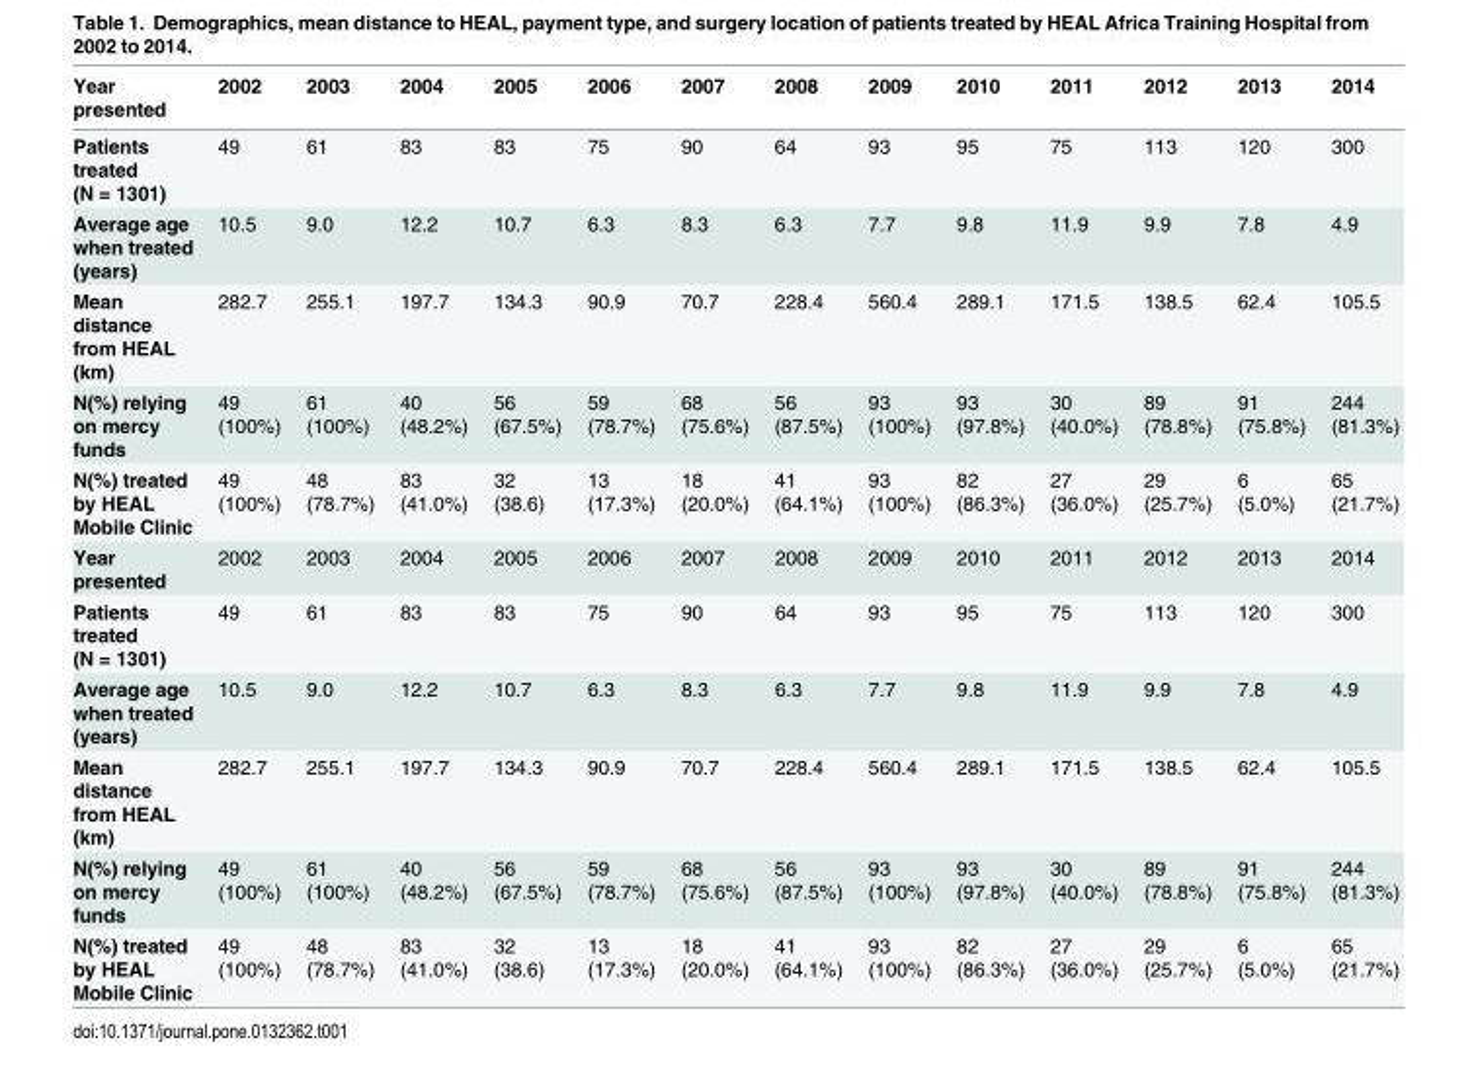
<table><thead><tr><td>Year presented</td><td>2002</td><td>2003</td><td>2004</td><td>2005</td><td>2006</td><td>2007</td><td>2008</td><td>2009</td><td>2010</td><td>2011</td><td>2012</td><td>2013</td><td>2014</td></tr></thead><tbody><tr><td>Patients treated (N = 1301)</td><td>49</td><td>61</td><td>83</td><td>83</td><td>75</td><td>90</td><td>64</td><td>93</td><td>95</td><td>75</td><td>113</td><td>120</td><td>300</td></tr><tr><td>Average age when treated (years)</td><td>10.5</td><td>9.0</td><td>12.2</td><td>10.7</td><td>6.3</td><td>8.3</td><td>6.3</td><td>7.7</td><td>9.8</td><td>11.9</td><td>9.9</td><td>7.8</td><td>4.9</td></tr><tr><td>Mean distance from HEAL (km)</td><td>282.7</td><td>255.1</td><td>197.7</td><td>134.3</td><td>90.9</td><td>70.7</td><td>228.4</td><td>560.4</td><td>289.1</td><td>171.5</td><td>138.5</td><td>62.4</td><td>105.5</td></tr><tr><td>N(%) relying on mercy funds</td><td>49 (100%)</td><td>61 (100%)</td><td>40 (48.2%)</td><td>56 (67.5%)</td><td>59 (78.7%)</td><td>68 (75.6%)</td><td>56 (87.5%)</td><td>93 (100%)</td><td>93 (97.8%)</td><td>30 (40.0%)</td><td>89 (78.8%)</td><td>91 (75.8%)</td><td>244 (81.3%)</td></tr><tr><td>N(%) treated by HEAL Mobile Clinic</td><td>49 (100%)</td><td>48 (78.7%)</td><td>83 (41.0%)</td><td>32 (38.6)</td><td>13 (17.3%)</td><td>18 (20.0%)</td><td>41 (64.1%)</td><td>93 (100%)</td><td>82 (86.3%)</td><td>27 (36.0%)</td><td>29 (25.7%)</td><td>6 (5.0%)</td><td>65 (21.7%)</td></tr><tr><td>Year presented</td><td>2002</td><td>2003</td><td>2004</td><td>2005</td><td>2006</td><td>2007</td><td>2008</td><td>2009</td><td>2010</td><td>2011</td><td>2012</td><td>2013</td><td>2014</td></tr><tr><td>Patients treated (N = 1301)</td><td>49</td><td>61</td><td>83</td><td>83</td><td>75</td><td>90</td><td>64</td><td>93</td><td>95</td><td>75</td><td>113</td><td>120</td><td>300</td></tr><tr><td>Average age when treated (years)</td><td>10.5</td><td>9.0</td><td>12.2</td><td>10.7</td><td>6.3</td><td>8.3</td><td>6.3</td><td>7.7</td><td>9.8</td><td>11.9</td><td>9.9</td><td>7.8</td><td>4.9</td></tr><tr><td>Mean distance from HEAL (km)</td><td>282.7</td><td>255.1</td><td>197.7</td><td>134.3</td><td>90.9</td><td>70.7</td><td>228.4</td><td>560.4</td><td>289.1</td><td>171.5</td><td>138.5</td><td>62.4</td><td>105.5</td></tr><tr><td>N(%) relying on mercy funds</td><td>49 (100%)</td><td>61 (100%)</td><td>40 (48.2%)</td><td>56 (67.5%)</td><td>59 (78.7%)</td><td>68 (75.6%)</td><td>56 (87.5%)</td><td>93 (100%)</td><td>93 (97.8%)</td><td>30 (40.0%)</td><td>89 (78.8%)</td><td>91 (75.8%)</td><td>244 (81.3%)</td></tr><tr><td>N(%) treated by HEAL Mobile Clinic</td><td>49 (100%)</td><td>48 (78.7%)</td><td>83 (41.0%)</td><td>32 (38.6)</td><td>13 (17.3%)</td><td>18 (20.0%)</td><td>41 (64.1%)</td><td>93 (100%)</td><td>82 (86.3%)</td><td>27 (36.0%)</td><td>29 (25.7%)</td><td>6 (5.0%)</td><td>65 (21.7%)</td></tr></tbody></table>